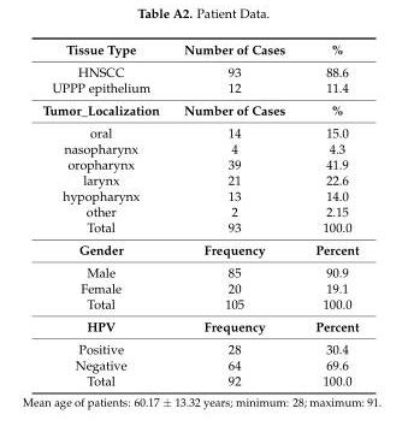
<table><tbody><tr><td>Tissue Type</td><td>Number of Cases</td><td>%</td></tr><tr><td>HNSCC</td><td>93</td><td>88.6</td></tr><tr><td>UPPP epithelium</td><td>12</td><td>11.4</td></tr><tr><td>Tumor_Localization</td><td>Number of Cases</td><td>%</td></tr><tr><td>oral</td><td>14</td><td>15.0</td></tr><tr><td>nasopharynx</td><td>4</td><td>4.3</td></tr><tr><td>oropharynx</td><td>39</td><td>41.9</td></tr><tr><td>larynx</td><td>21</td><td>22.6</td></tr><tr><td>hypopharynx</td><td>13</td><td>14.0</td></tr><tr><td>other</td><td>2</td><td>2.15</td></tr><tr><td>Total</td><td>93</td><td>100.0</td></tr><tr><td>Gender</td><td>Frequency</td><td>Percent</td></tr><tr><td>Male</td><td>85</td><td>90.9</td></tr><tr><td>Female</td><td>20</td><td>19.1</td></tr><tr><td>Total</td><td>105</td><td>100.0</td></tr><tr><td>HPV</td><td>Frequency</td><td>Percent</td></tr><tr><td>Positive</td><td>28</td><td>30.4</td></tr><tr><td>Negative</td><td>64</td><td>69.6</td></tr><tr><td>Total</td><td>92</td><td>100.0</td></tr></tbody></table>